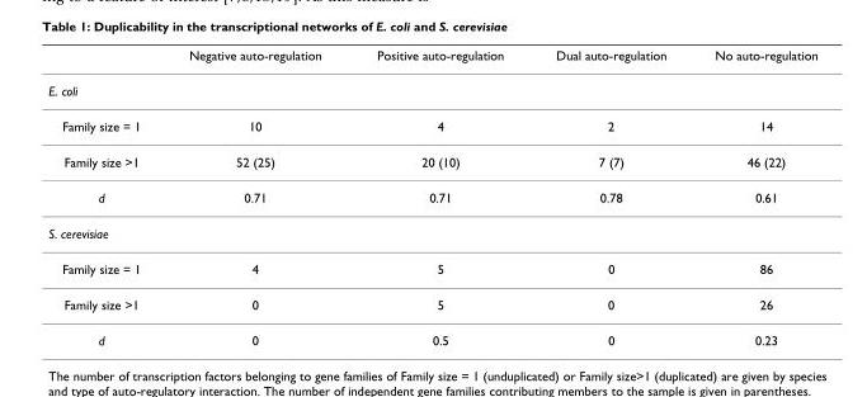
<table><thead><tr><td></td><td>Negative auto-regulation</td><td>Positive auto-regulation</td><td>Dual auto-regulation</td><td>No auto-regulation</td></tr></thead><tbody><tr><td colspan="5">E. coli</td></tr><tr><td>Family size = 1</td><td>10</td><td>4</td><td>2</td><td>14</td></tr><tr><td>Family size &gt;1</td><td>52 (25)</td><td>20 (10)</td><td>7 (7)</td><td>46 (22)</td></tr><tr><td>d</td><td>0.71</td><td>0.71</td><td>0.78</td><td>0.61</td></tr><tr><td colspan="5">S. cerevisiae</td></tr><tr><td>Family size = 1</td><td>4</td><td>5</td><td>0</td><td>86</td></tr><tr><td>Family size &gt;1</td><td>0</td><td>5</td><td>0</td><td>26</td></tr><tr><td>d</td><td>0</td><td>0.5</td><td>0</td><td>0.23</td></tr></tbody></table>